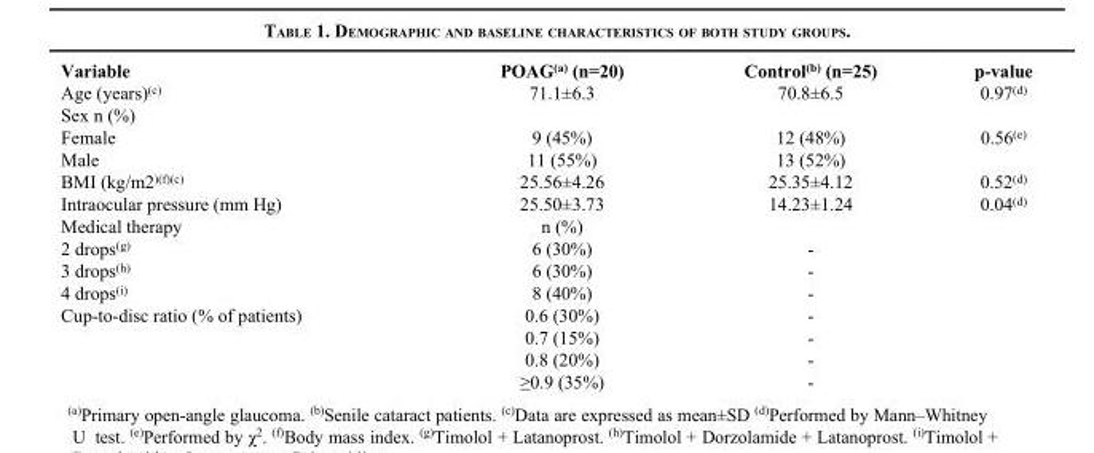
<table><thead><tr><td>Variable</td><td>POAG<sup>(a)</sup> (n=20)</td><td>Control<sup>(b)</sup> (n=25)</td><td>p-value</td></tr></thead><tbody><tr><td>Age (years)<sup>(c)</sup></td><td>71.1±6.3</td><td>70.8±6.5</td><td>0.97<sup>(d)</sup></td></tr><tr><td colspan="4">Sex n (%)</td></tr><tr><td>Female</td><td>9 (45%)</td><td>12 (48%)</td><td>0.56<sup>(e)</sup></td></tr><tr><td>Male</td><td>11 (55%)</td><td>13 (52%)</td><td></td></tr><tr><td>BMI (kg/m2<sup>)(f)(c)</sup></td><td>25.56±4.26</td><td>25.35±4.12</td><td>0.52<sup>(d)</sup></td></tr><tr><td>Intraocular pressure (mm Hg)</td><td>25.50±3.73</td><td>14.23±1.24</td><td>0.04<sup>(d)</sup></td></tr><tr><td>Medical therapy</td><td>n (%)</td><td></td><td></td></tr><tr><td>2 drops<sup>(g)</sup></td><td>6 (30%)</td><td>-</td><td></td></tr><tr><td>3 drops<sup>(h)</sup></td><td>6 (30%)</td><td>-</td><td></td></tr><tr><td>4 drops<sup>(i)</sup></td><td>8 (40%)</td><td>-</td><td></td></tr><tr><td rowspan="4">Cup-to-disc ratio (% of patients)</td><td>0.6 (30%)</td><td>-</td><td></td></tr><tr><td>0.7 (15%)</td><td>-</td><td></td></tr><tr><td>0.8 (20%)</td><td>-</td><td></td></tr><tr><td>≥0.9 (35%)</td><td>-</td><td></td></tr></tbody></table>